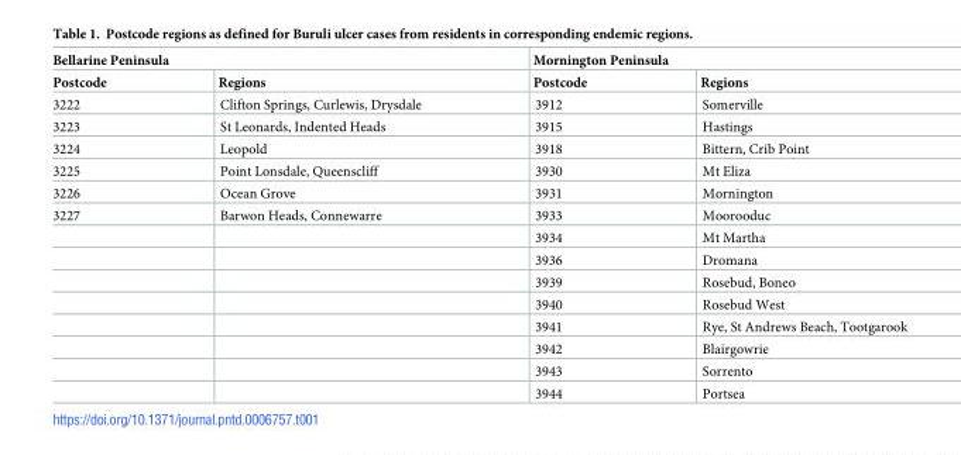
<table><thead><tr><td colspan="2">Bellarine Peninsula</td><td colspan="2">Mornington Peninsula</td></tr><tr><td>Postcode</td><td>Regions</td><td>Postcode</td><td>Regions</td></tr></thead><tbody><tr><td>3222</td><td>Clifton Springs, Curlewis, Drysdale</td><td>3912</td><td>Somerville</td></tr><tr><td>3223</td><td>St Leonards, Indented Heads</td><td>3915</td><td>Hastings</td></tr><tr><td>3224</td><td>Leopold</td><td>3918</td><td>Bittern, Crib Point</td></tr><tr><td>3225</td><td>Point Lonsdale, Queenscliff</td><td>3930</td><td>Mt Eliza</td></tr><tr><td>3226</td><td>Ocean Grove</td><td>3931</td><td>Mornington</td></tr><tr><td rowspan="9">3227</td><td>Barwon Heads, Connewarre</td><td>3933</td><td>Moorooduc</td></tr><tr><td></td><td>3934</td><td>Mt Martha</td></tr><tr><td></td><td>3936</td><td>Dromana</td></tr><tr><td></td><td>3939</td><td>Rosebud, Boneo</td></tr><tr><td></td><td>3940</td><td>Rosebud West</td></tr><tr><td></td><td>3941</td><td>Rye, St Andrews Beach, Tootgarook</td></tr><tr><td></td><td>3942</td><td>Blairgowrie</td></tr><tr><td></td><td>3943</td><td>Sorrento</td></tr><tr><td></td><td>3944</td><td>Portsea</td></tr></tbody></table>